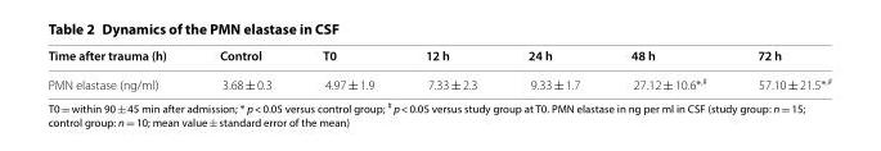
<table><thead><tr><td>Time after trauma (h)</td><td>Control</td><td>T0</td><td>12 h</td><td>24 h</td><td>48 h</td><td>72 h</td></tr></thead><tbody><tr><td>PMN elastase (ng/ml)</td><td>3.68 ± 0.3</td><td>4.97 ± 1.9</td><td>7.33 ± 2.3</td><td>9.33 ± 1.7</td><td>27.12 ± 10.6*<sup>,#</sup></td><td>57.10 ± 21.5*<sup>,#</sup></td></tr></tbody></table>